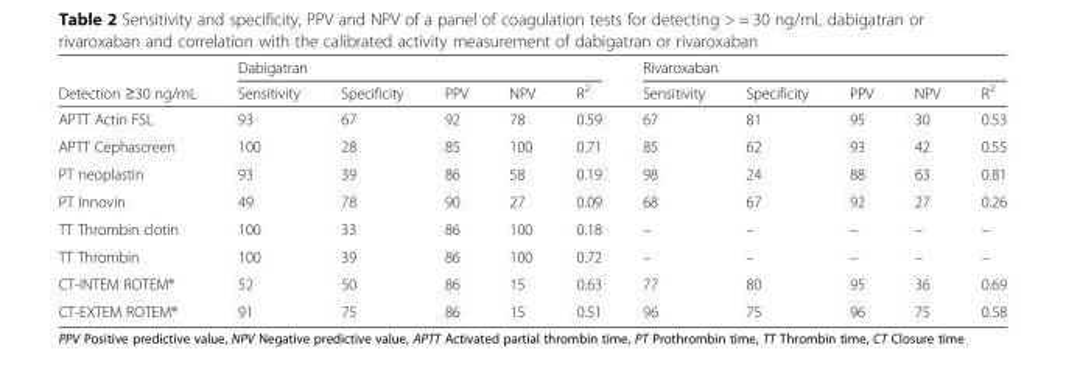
<table><thead><tr><td rowspan="2">Detection ≥30 ng/mL</td><td colspan="5">Dabigatran</td><td colspan="5">Rivaroxaban</td></tr><tr><td>Sensitivity</td><td>Specificity</td><td>PPV</td><td>NPV</td><td>R<sup>2</sup></td><td>Sensitivity</td><td>Specificity</td><td>PPV</td><td>NPV</td><td>R<sup>2</sup></td></tr></thead><tbody><tr><td>APTT Actin FSL</td><td>93</td><td>67</td><td>92</td><td>78</td><td>0.59</td><td>67</td><td>81</td><td>95</td><td>30</td><td>0.53</td></tr><tr><td>APTT Cephascreen</td><td>100</td><td>28</td><td>85</td><td>100</td><td>0.71</td><td>85</td><td>62</td><td>93</td><td>42</td><td>0.55</td></tr><tr><td>PT neoplastin</td><td>93</td><td>39</td><td>86</td><td>58</td><td>0.19</td><td>98</td><td>24</td><td>88</td><td>63</td><td>0.81</td></tr><tr><td>PT Innovin</td><td>49</td><td>78</td><td>90</td><td>27</td><td>0.09</td><td>68</td><td>67</td><td>92</td><td>27</td><td>0.26</td></tr><tr><td>TT Thrombin clotin</td><td>100</td><td>33</td><td>86</td><td>100</td><td>0.18</td><td>–</td><td>–</td><td>–</td><td>–</td><td>–</td></tr><tr><td>TT Thrombin</td><td>100</td><td>39</td><td>86</td><td>100</td><td>0.72</td><td>–</td><td>–</td><td>–</td><td>–</td><td>–</td></tr><tr><td>CT-INTEM ROTEM®</td><td>52</td><td>50</td><td>86</td><td>15</td><td>0.63</td><td>77</td><td>80</td><td>95</td><td>36</td><td>0.69</td></tr><tr><td>CT-EXTEM ROTEM®</td><td>91</td><td>75</td><td>86</td><td>15</td><td>0.51</td><td>96</td><td>75</td><td>96</td><td>75</td><td>0.58</td></tr></tbody></table>